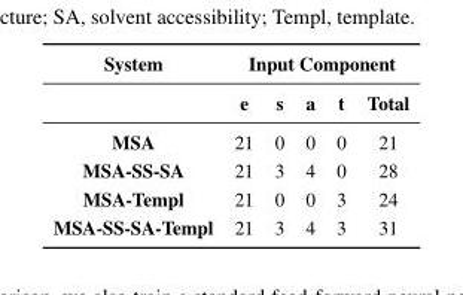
<table><thead><tr><td rowspan="2">System</td><td colspan="5">Input Component</td></tr><tr><td>e</td><td>s</td><td>a</td><td>t</td><td>Total</td></tr></thead><tbody><tr><td>MSA</td><td>21</td><td>0</td><td>0</td><td>0</td><td>21</td></tr><tr><td>MSA-SS-SA</td><td>21</td><td>3</td><td>4</td><td>0</td><td>28</td></tr><tr><td>MSA-Templ</td><td>21</td><td>0</td><td>0</td><td>3</td><td>24</td></tr><tr><td>MSA-SS-SA-Templ</td><td>21</td><td>3</td><td>4</td><td>3</td><td>31</td></tr></tbody></table>